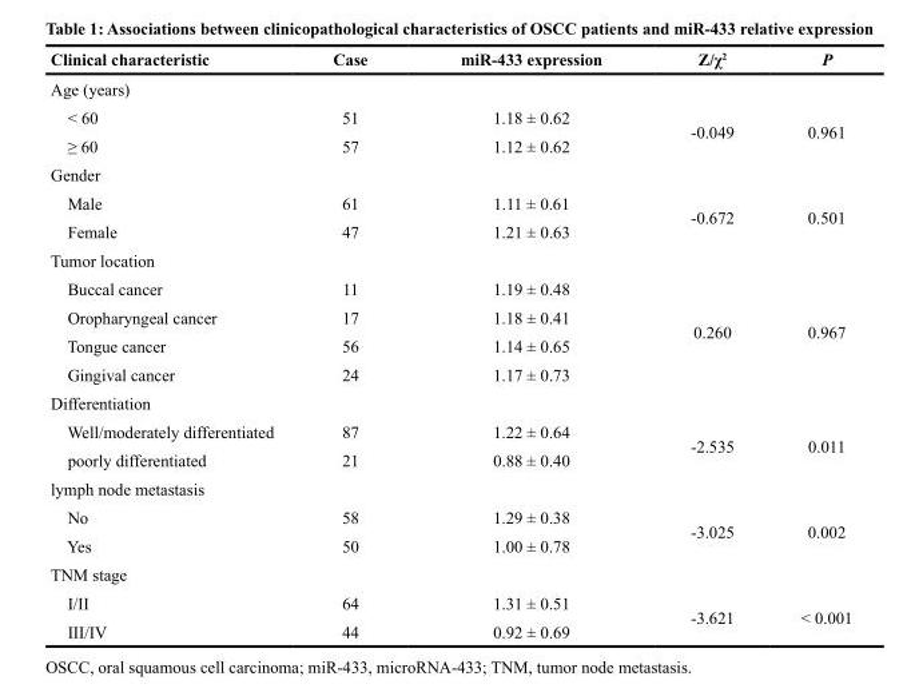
<table><thead><tr><td>Clinical characteristic</td><td>Case</td><td>miR-433 expression</td><td>Z/χ2</td><td>P</td></tr></thead><tbody><tr><td colspan="5">Age (years)</td></tr><tr><td>&lt; 60</td><td>51</td><td>1.18 ± 0.62</td><td rowspan="2">-0.049</td><td rowspan="2">0.961</td></tr><tr><td>≥ 60</td><td>57</td><td>1.12 ± 0.62</td></tr><tr><td colspan="5">Gender</td></tr><tr><td>Male</td><td>61</td><td>1.11 ± 0.61</td><td rowspan="2">-0.672</td><td rowspan="2">0.501</td></tr><tr><td>Female</td><td>47</td><td>1.21 ± 0.63</td></tr><tr><td colspan="5">Tumor location</td></tr><tr><td>Buccal cancer</td><td>11</td><td>1.19 ± 0.48</td><td></td><td></td></tr><tr><td>Oropharyngeal cancer</td><td>17</td><td>1.18 ± 0.41</td><td rowspan="2">0.260</td><td rowspan="2">0.967</td></tr><tr><td>Tongue cancer</td><td>56</td><td>1.14 ± 0.65</td></tr><tr><td>Gingival cancer</td><td>24</td><td>1.17 ± 0.73</td><td></td><td></td></tr><tr><td colspan="5">Differentiation</td></tr><tr><td>Well/moderately differentiated</td><td>87</td><td>1.22 ± 0.64</td><td rowspan="2">-2.535</td><td rowspan="2">0.011</td></tr><tr><td>poorly differentiated</td><td>21</td><td>0.88 ± 0.40</td></tr><tr><td colspan="5">lymph node metastasis</td></tr><tr><td>No</td><td>58</td><td>1.29 ± 0.38</td><td rowspan="2">-3.025</td><td rowspan="2">0.002</td></tr><tr><td>Yes</td><td>50</td><td>1.00 ± 0.78</td></tr><tr><td colspan="5">TNM stage</td></tr><tr><td>I/II</td><td>64</td><td>1.31 ± 0.51</td><td rowspan="2">-3.621</td><td rowspan="2">&lt; 0.001</td></tr><tr><td>III/IV</td><td>44</td><td>0.92 ± 0.69</td></tr></tbody></table>